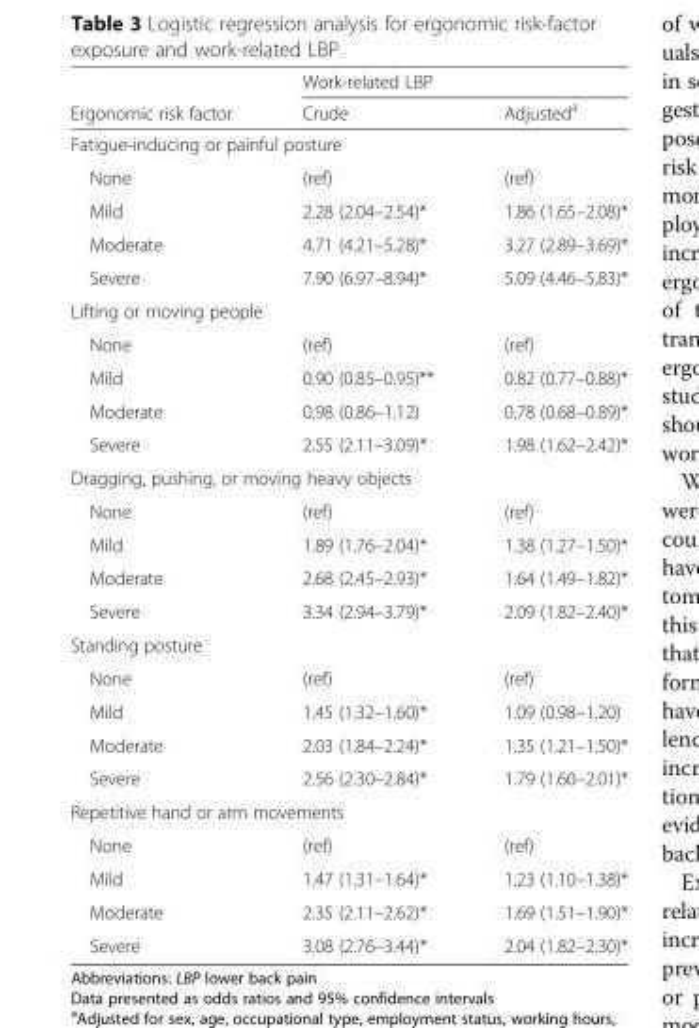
<table><thead><tr><td rowspan="2">Ergonomic risk factor</td><td colspan="2">Work-related LBP</td></tr><tr><td>Crude</td><td>Adjusted<sup>a</sup></td></tr></thead><tbody><tr><td colspan="3">Fatigue-inducing or painful posture</td></tr><tr><td>None</td><td>(ref)</td><td>(ref)</td></tr><tr><td>Mild</td><td>2.28 (2.04–2.54)*</td><td>1.86 (1.65–2.08)*</td></tr><tr><td>Moderate</td><td>4.71 (4.21–5.28)*</td><td>3.27 (2.89–3.69)*</td></tr><tr><td>Severe</td><td>7.90 (6.97–8.94)*</td><td>5.09 (4.46–5.83)*</td></tr><tr><td colspan="3">Lifting or moving people</td></tr><tr><td>None</td><td>(ref)</td><td>(ref)</td></tr><tr><td>Mild</td><td>0.90 (0.85–0.95)**</td><td>0.82 (0.77–0.88)*</td></tr><tr><td>Moderate</td><td>0.98 (0.86–1.12)</td><td>0.78 (0.68–0.89)*</td></tr><tr><td>Severe</td><td>2.55 (2.11–3.09)*</td><td>1.98 (1.62–2.42)*</td></tr><tr><td colspan="3">Dragging, pushing, or moving heavy objects</td></tr><tr><td>None</td><td>(ref)</td><td>(ref)</td></tr><tr><td>Mild</td><td>1.89 (1.76–2.04)*</td><td>1.38 (1.27–1.50)*</td></tr><tr><td>Moderate</td><td>2.68 (2.45–2.93)*</td><td>1.64 (1.49–1.82)*</td></tr><tr><td>Severe</td><td>3.34 (2.94–3.79)*</td><td>2.09 (1.82–2.40)*</td></tr><tr><td colspan="3">Standing posture</td></tr><tr><td>None</td><td>(ref)</td><td>(ref)</td></tr><tr><td>Mild</td><td>1.45 (1.32–1.60)*</td><td>1.09 (0.98–1.20)</td></tr><tr><td>Moderate</td><td>2.03 (1.84–2.24)*</td><td>1.35 (1.21–1.50)*</td></tr><tr><td>Severe</td><td>2.56 (2.30–2.84)*</td><td>1.79 (1.60–2.01)*</td></tr><tr><td colspan="3">Repetitive hand or arm movements</td></tr><tr><td>None</td><td>(ref)</td><td>(ref)</td></tr><tr><td>Mild</td><td>1.47 (1.31–1.64)*</td><td>1.23 (1.10–1.38)*</td></tr><tr><td>Moderate</td><td>2.35 (2.11–2.62)*</td><td>1.69 (1.51–1.90)*</td></tr><tr><td>Severe</td><td>3.08 (2.76–3.44)*</td><td>2.04 (1.82–2.30)*</td></tr></tbody></table>